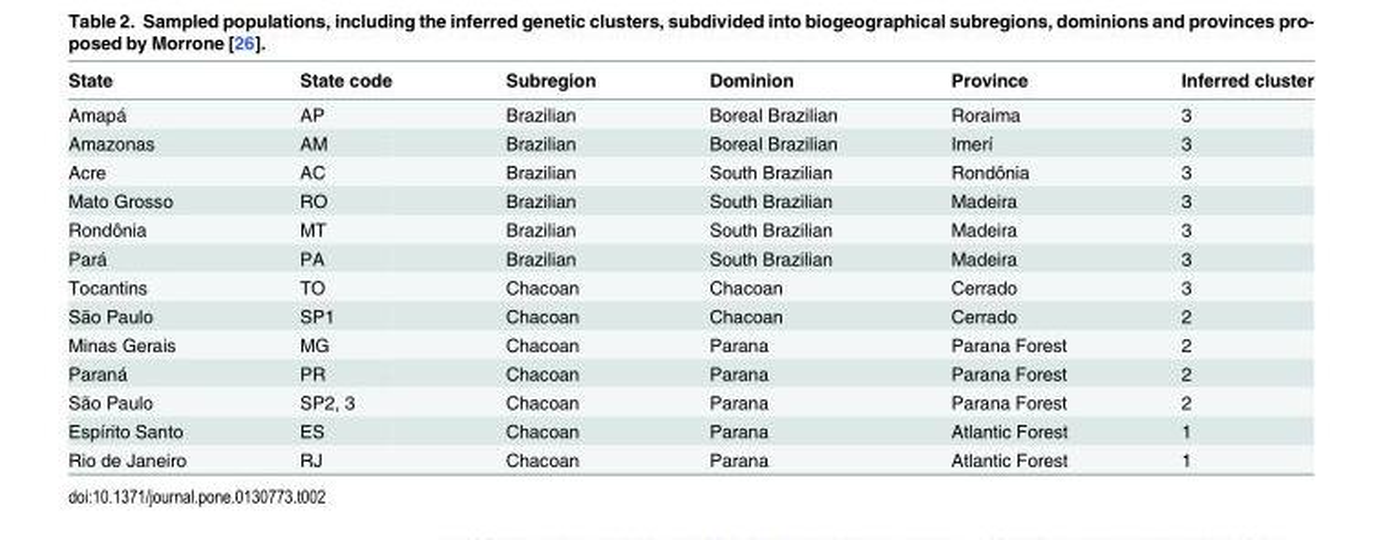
<table><thead><tr><td>State</td><td>State code</td><td>Subregion</td><td>Dominion</td><td>Province</td><td>Inferred cluster</td></tr></thead><tbody><tr><td>Amapá</td><td>AP</td><td>Brazilian</td><td>Boreal Brazilian</td><td>Roraima</td><td>3</td></tr><tr><td>Amazonas</td><td>AM</td><td>Brazilian</td><td>Boreal Brazilian</td><td>Imerí</td><td>3</td></tr><tr><td>Acre</td><td>AC</td><td>Brazilian</td><td>South Brazilian</td><td>Rondônia</td><td>3</td></tr><tr><td>Mato Grosso</td><td>RO</td><td>Brazilian</td><td>South Brazilian</td><td>Madeira</td><td>3</td></tr><tr><td>Rondônia</td><td>MT</td><td>Brazilian</td><td>South Brazilian</td><td>Madeira</td><td>3</td></tr><tr><td>Pará</td><td>PA</td><td>Brazilian</td><td>South Brazilian</td><td>Madeira</td><td>3</td></tr><tr><td>Tocantins</td><td>TO</td><td>Chacoan</td><td>Chacoan</td><td>Cerrado</td><td>3</td></tr><tr><td>São Paulo</td><td>SP1</td><td>Chacoan</td><td>Chacoan</td><td>Cerrado</td><td>2</td></tr><tr><td>Minas Gerais</td><td>MG</td><td>Chacoan</td><td>Parana</td><td>Parana Forest</td><td>2</td></tr><tr><td>Paraná</td><td>PR</td><td>Chacoan</td><td>Parana</td><td>Parana Forest</td><td>2</td></tr><tr><td>São Paulo</td><td>SP2, 3</td><td>Chacoan</td><td>Parana</td><td>Parana Forest</td><td>2</td></tr><tr><td>Espírito Santo</td><td>ES</td><td>Chacoan</td><td>Parana</td><td>Atlantic Forest</td><td>1</td></tr><tr><td>Rio de Janeiro</td><td>RJ</td><td>Chacoan</td><td>Parana</td><td>Atlantic Forest</td><td>1</td></tr></tbody></table>